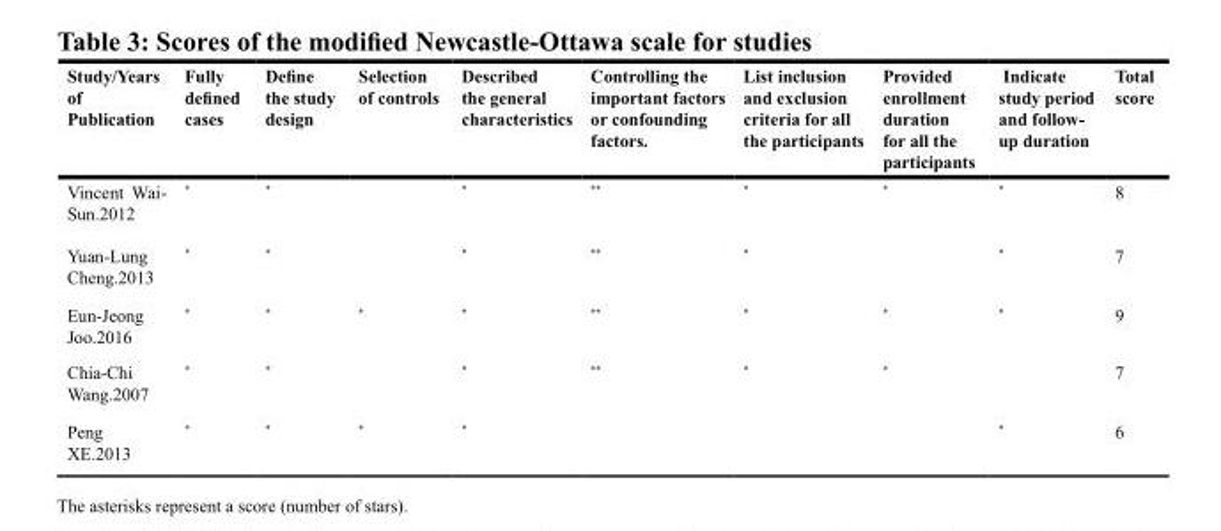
<table><thead><tr><td>Study/Years of Publication</td><td>Fully defined cases</td><td>Define the study design</td><td>Selection of controls</td><td>Described the general characteristics</td><td>Controlling the important factors or confounding factors.</td><td>List inclusion and exclusion criteria for all the participants</td><td>Provided enrollment duration for all the participants</td><td>Indicate study period and follow- up duration</td><td>Total score</td></tr></thead><tbody><tr><td>Vincent Wai- Sun.2012</td><td>*</td><td>*</td><td></td><td>*</td><td>**</td><td>*</td><td>*</td><td>*</td><td>8</td></tr><tr><td>Yuan-Lung Cheng.2013</td><td>*</td><td>*</td><td></td><td>*</td><td>**</td><td>*</td><td></td><td>*</td><td>7</td></tr><tr><td>Eun-Jeong Joo.2016</td><td>*</td><td>*</td><td>*</td><td>*</td><td>**</td><td>*</td><td>*</td><td>*</td><td>9</td></tr><tr><td>Chia-Chi Wang.2007</td><td>*</td><td>*</td><td></td><td>*</td><td>**</td><td>*</td><td>*</td><td></td><td>7</td></tr><tr><td>Peng XE.2013</td><td>*</td><td>*</td><td>*</td><td>*</td><td></td><td></td><td></td><td>*</td><td>6</td></tr></tbody></table>